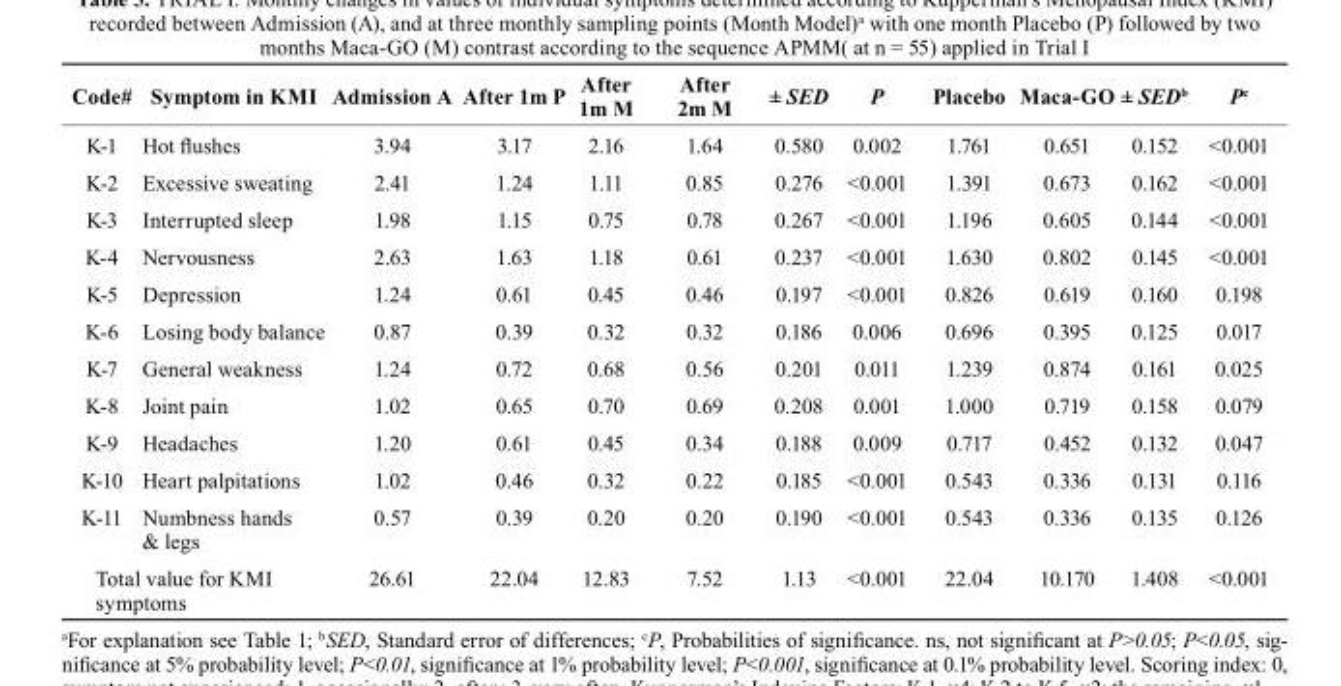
<table><thead><tr><td>code#</td><td>Symptom in KMI</td><td>Admission A</td><td>After 1m P</td><td>After 1m M</td><td>After 2m M</td><td>± SED</td><td>P</td><td>Placebo</td><td>Maca-GO</td><td>± SED<sup>b</sup></td><td>P<sup>c</sup></td></tr></thead><tbody><tr><td>K-1</td><td>Hot flushes</td><td>3.94</td><td>3.17</td><td>2.16</td><td>1.64</td><td>0.580</td><td>0.002</td><td>1.761</td><td>0.651</td><td>0.152</td><td>&lt;0.001</td></tr><tr><td>K-2</td><td>Excessive sweating</td><td>2.41</td><td>1.24</td><td>1.11</td><td>0.85</td><td>0.276</td><td>&lt;0.001</td><td>1.391</td><td>0.673</td><td>0.162</td><td>&lt;0.001</td></tr><tr><td>K-3</td><td>Interrupted sleep</td><td>1.98</td><td>1.15</td><td>0.75</td><td>0.78</td><td>0.267</td><td>&lt;0.001</td><td>1.196</td><td>0.605</td><td>0.144</td><td>&lt;0.001</td></tr><tr><td>K-4</td><td>Nervousness</td><td>2.63</td><td>1.63</td><td>1.18</td><td>0.61</td><td>0.237</td><td>&lt;0.001</td><td>1.630</td><td>0.802</td><td>0.145</td><td>&lt;0.001</td></tr><tr><td>K-5</td><td>Depression</td><td>1.24</td><td>0.61</td><td>0.45</td><td>0.46</td><td>0.197</td><td>&lt;0.001</td><td>0.826</td><td>0.619</td><td>0.160</td><td>0.198</td></tr><tr><td>K-6</td><td>Losing body balance</td><td>0.87</td><td>0.39</td><td>0.32</td><td>0.32</td><td>0.186</td><td>0.006</td><td>0.696</td><td>0.395</td><td>0.125</td><td>0.017</td></tr><tr><td>K-7</td><td>General weakness</td><td>1.24</td><td>0.72</td><td>0.68</td><td>0.56</td><td>0.201</td><td>0.011</td><td>1.239</td><td>0.874</td><td>0.161</td><td>0.025</td></tr><tr><td>K-8</td><td>Joint pain</td><td>1.02</td><td>0.65</td><td>0.70</td><td>0.69</td><td>0.208</td><td>0.001</td><td>1.000</td><td>0.719</td><td>0.158</td><td>0.079</td></tr><tr><td>K-9</td><td>Headaches</td><td>1.20</td><td>0.61</td><td>0.45</td><td>0.34</td><td>0.188</td><td>0.009</td><td>0.717</td><td>0.452</td><td>0.132</td><td>0.047</td></tr><tr><td>K-10</td><td>Heart palpitations</td><td>1.02</td><td>0.46</td><td>0.32</td><td>0.22</td><td>0.185</td><td>&lt;0.001</td><td>0.543</td><td>0.336</td><td>0.131</td><td>0.116</td></tr><tr><td>K-11</td><td>Numbness hands &amp; legs</td><td>0.57</td><td>0.39</td><td>0.20</td><td>0.20</td><td>0.190</td><td>&lt;0.001</td><td>0.543</td><td>0.336</td><td>0.135</td><td>0.126</td></tr><tr><td colspan="2">Total value for KMI symptoms</td><td>26.61</td><td>22.04</td><td>12.83</td><td>7.52</td><td>1.13</td><td>&lt;0.001</td><td>22.04</td><td>10.170</td><td>1.408</td><td>&lt;0.001</td></tr></tbody></table>